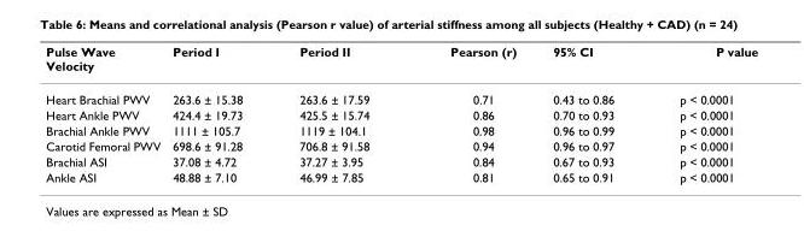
<table><thead><tr><td>Pulse Wave Velocity</td><td>Period I</td><td>Period II</td><td>Pearson (r)</td><td>95% CI</td><td>P value</td></tr></thead><tbody><tr><td>Heart Brachial PWV</td><td>263.6 ± 15.38</td><td>263.6 ± 17.59</td><td>0.71</td><td>0.43 to 0.86</td><td>p &lt; 0.0001</td></tr><tr><td>Heart Ankle PWV</td><td>424.4 ± 19.73</td><td>425.5 ± 15.74</td><td>0.86</td><td>0.70 to 0.93</td><td>p &lt; 0.0001</td></tr><tr><td>Brachial Ankle PWV</td><td>1111 ± 105.7</td><td>1119 ± 104.1</td><td>0.98</td><td>0.96 to 0.99</td><td>p &lt; 0.0001</td></tr><tr><td>Carotid Femoral PWV</td><td>698.6 ± 91.28</td><td>706.8 ± 91.58</td><td>0.94</td><td>0.96 to 0.97</td><td>p &lt; 0.0001</td></tr><tr><td>Brachial ASI</td><td>37.08 ± 4.72</td><td>37.27 ± 3.95</td><td>0.84</td><td>0.67 to 0.93</td><td>p &lt; 0.0001</td></tr><tr><td>Ankle ASI</td><td>48.88 ± 7.10</td><td>46.99 ± 7.85</td><td>0.81</td><td>0.65 to 0.91</td><td>p &lt; 0.0001</td></tr></tbody></table>